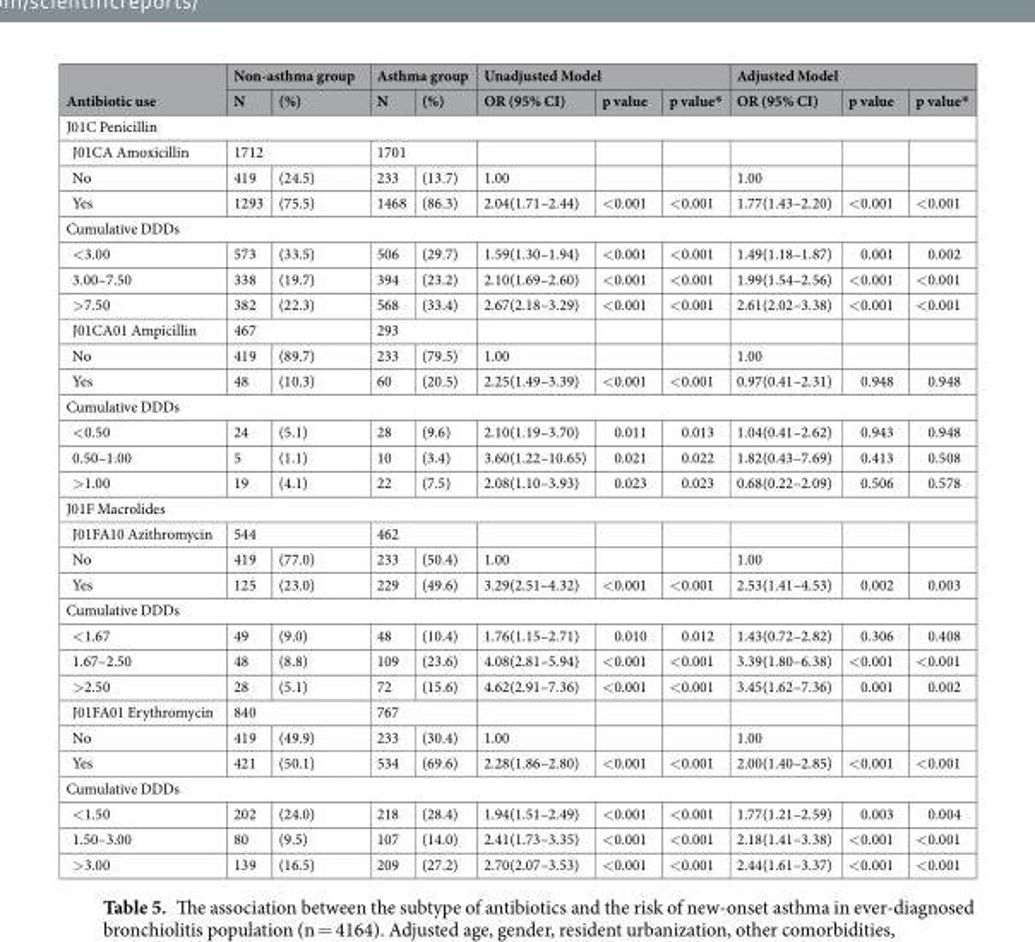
<table><thead><tr><td rowspan="2">Antibiotic use</td><td colspan="2">Non-asthma group</td><td colspan="2">Asthma group</td><td colspan="3">Unadjusted Model</td><td colspan="3">Adjusted Model</td></tr><tr><td>N</td><td>(%)</td><td>N</td><td>(%)</td><td>OR (95% CI)</td><td>p value</td><td>p value*</td><td>OR (95% CI)</td><td>p value</td><td>p value*</td></tr></thead><tbody><tr><td colspan="11">J01C Penicillin</td></tr><tr><td>J01CA Amoxicillin</td><td colspan="2">1712</td><td colspan="2">1701</td><td></td><td></td><td></td><td></td><td></td><td></td></tr><tr><td>No</td><td>419</td><td>(24.5)</td><td>233</td><td>(13.7)</td><td>1.00</td><td></td><td></td><td>1.00</td><td></td><td></td></tr><tr><td>Yes</td><td>1293</td><td>(75.5)</td><td>1468</td><td>(86.3)</td><td>2.04(1.71–2.44)</td><td>&lt;0.001</td><td>&lt;0.001</td><td>1.77(1.43–2.20)</td><td>&lt;0.001</td><td>&lt;0.001</td></tr><tr><td colspan="11">Cumulative DDDs</td></tr><tr><td>&lt;3.00</td><td>573</td><td>(33.5)</td><td>506</td><td>(29.7)</td><td>1.59(1.30–1.94)</td><td>&lt;0.001</td><td>&lt;0.001</td><td>1.49(1.18–1.87)</td><td>0.001</td><td>0.002</td></tr><tr><td>3.00–7.50</td><td>338</td><td>(19.7)</td><td>394</td><td>(23.2)</td><td>2.10(1.69–2.60)</td><td>&lt;0.001</td><td>&lt;0.001</td><td>1.99(1.54–2.56)</td><td>&lt;0.001</td><td>&lt;0.001</td></tr><tr><td>&gt;7.50</td><td>382</td><td>(22.3)</td><td>568</td><td>(33.4)</td><td>2.67(2.18–3.29)</td><td>&lt;0.001</td><td>&lt;0.001</td><td>2.61(2.02–3.38)</td><td>&lt;0.001</td><td>&lt;0.001</td></tr><tr><td>J01CA01 Ampicillin</td><td colspan="2">467</td><td colspan="2">293</td><td></td><td></td><td></td><td></td><td></td><td></td></tr><tr><td>No</td><td>419</td><td>(89.7)</td><td>233</td><td>(79.5)</td><td>1.00</td><td></td><td></td><td>1.00</td><td></td><td></td></tr><tr><td>Yes</td><td>48</td><td>(10.3)</td><td>60</td><td>(20.5)</td><td>2.25(1.49–3.39)</td><td>&lt;0.001</td><td>&lt;0.001</td><td>0.97(0.41–2.31)</td><td>0.948</td><td>0.948</td></tr><tr><td colspan="11">Cumulative DDDs</td></tr><tr><td>&lt;0.50</td><td>24</td><td>(5.1)</td><td>28</td><td>(9.6)</td><td>2.10(1.19–3.70)</td><td>0.011</td><td>0.013</td><td>1.04(0.41–2.62)</td><td>0.943</td><td>0.948</td></tr><tr><td>0.50–1.00</td><td>5</td><td>(1.1)</td><td>10</td><td>(3.4)</td><td>3.60(1.22–10.65)</td><td>0.021</td><td>0.022</td><td>1.82(0.43–7.69)</td><td>0.413</td><td>0.508</td></tr><tr><td>&gt;1.00</td><td>19</td><td>(4.1)</td><td>22</td><td>(7.5)</td><td>2.08(1.10–3.93)</td><td>0.023</td><td>0.023</td><td>0.68(0.22–2.09)</td><td>0.506</td><td>0.578</td></tr><tr><td colspan="11">J01F Macrolides</td></tr><tr><td>J01FA10 Azithromycin</td><td colspan="2">544</td><td colspan="2">462</td><td></td><td></td><td></td><td></td><td></td><td></td></tr><tr><td>No</td><td>419</td><td>(77.0)</td><td>233</td><td>(50.4)</td><td>1.00</td><td></td><td></td><td>1.00</td><td></td><td></td></tr><tr><td>Yes</td><td>125</td><td>(23.0)</td><td>229</td><td>(49.6)</td><td>3.29(2.51–4.32)</td><td>&lt;0.001</td><td>&lt;0.001</td><td>2.53(1.41–4.53)</td><td>0.002</td><td>0.003</td></tr><tr><td colspan="11">Cumulative DDDs</td></tr><tr><td>&lt;1.67</td><td>49</td><td>(9.0)</td><td>48</td><td>(10.4)</td><td>1.76(1.15–2.71)</td><td>0.010</td><td>0.012</td><td>1.43(0.72–2.82)</td><td>0.306</td><td>0.408</td></tr><tr><td>1.67–2.50</td><td>48</td><td>(8.8)</td><td>109</td><td>(23.6)</td><td>4.08(2.81–5.94)</td><td>&lt;0.001</td><td>&lt;0.001</td><td>3.39(1.80–6.38)</td><td>&lt;0.001</td><td>&lt;0.001</td></tr><tr><td>&gt;2.50</td><td>28</td><td>(5.1)</td><td>72</td><td>(15.6)</td><td>4.62(2.91–7.36)</td><td>&lt;0.001</td><td>&lt;0.001</td><td>3.45(1.62–7.36)</td><td>0.001</td><td>0.002</td></tr><tr><td>J01FA01 Erythromycin</td><td colspan="2">840</td><td colspan="2">767</td><td></td><td></td><td></td><td></td><td></td><td></td></tr><tr><td>No</td><td>419</td><td>(49.9)</td><td>233</td><td>(30.4)</td><td>1.00</td><td></td><td></td><td>1.00</td><td></td><td></td></tr><tr><td>Yes</td><td>421</td><td>(50.1)</td><td>534</td><td>(69.6)</td><td>2.28(1.86–2.80)</td><td>&lt;0.001</td><td>&lt;0.001</td><td>2.00(1.40–2.85)</td><td>&lt;0.001</td><td>&lt;0.001</td></tr><tr><td colspan="11">Cumulative DDDs</td></tr><tr><td>&lt;1.50</td><td>202</td><td>(24.0)</td><td>218</td><td>(28.4)</td><td>1.94(1.51–2.49)</td><td>&lt;0.001</td><td>&lt;0.001</td><td>1.77(1.21–2.59)</td><td>0.003</td><td>0.004</td></tr><tr><td>1.50–3.00</td><td>80</td><td>(9.5)</td><td>107</td><td>(14.0)</td><td>2.41(1.73–3.35)</td><td>&lt;0.001</td><td>&lt;0.001</td><td>2.18(1.41–3.38)</td><td>&lt;0.001</td><td>&lt;0.001</td></tr><tr><td>&gt;3.00</td><td>139</td><td>(16.5)</td><td>209</td><td>(27.2)</td><td>2.70(2.07–3.53)</td><td>&lt;0.001</td><td>&lt;0.001</td><td>2.44(1.61–3.37)</td><td>&lt;0.001</td><td>&lt;0.001</td></tr></tbody></table>